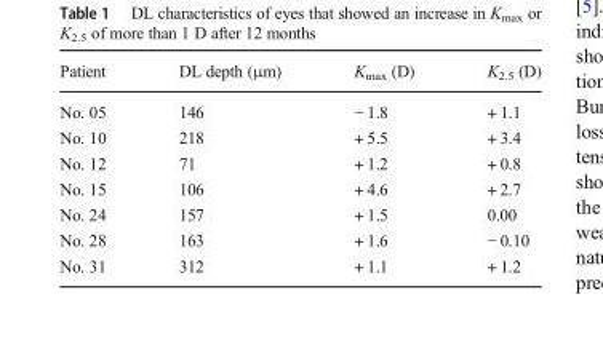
<table><thead><tr><td>Patient</td><td>DL depth (μm)</td><td>K<sub>max</sub> (D)</td><td>K<sub>2.5</sub> (D)</td></tr></thead><tbody><tr><td>No. 05</td><td>146</td><td>− 1.8</td><td>+ 1.1</td></tr><tr><td>No. 10</td><td>218</td><td>+ 5.5</td><td>+ 3.4</td></tr><tr><td>No. 12</td><td>71</td><td>+ 1.2</td><td>+ 0.8</td></tr><tr><td>No. 15</td><td>106</td><td>+ 4.6</td><td>+ 2.7</td></tr><tr><td>No. 24</td><td>157</td><td>+ 1.5</td><td>0.00</td></tr><tr><td>No. 28</td><td>163</td><td>+ 1.6</td><td>− 0.10</td></tr><tr><td>No. 31</td><td>312</td><td>+ 1.1</td><td>+ 1.2</td></tr></tbody></table>